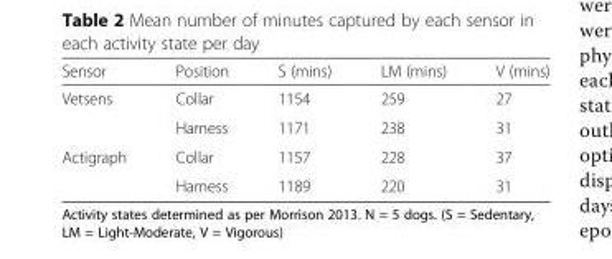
<table><thead><tr><td>Sensor</td><td>Position</td><td>S (mins)</td><td>LM (mins)</td><td>V (mins)</td></tr></thead><tbody><tr><td rowspan="2">Vetsens</td><td>Collar</td><td>1154</td><td>259</td><td>27</td></tr><tr><td>Harness</td><td>1171</td><td>238</td><td>31</td></tr><tr><td rowspan="2">Actigraph</td><td>Collar</td><td>1157</td><td>228</td><td>37</td></tr><tr><td>Harness</td><td>1189</td><td>220</td><td>31</td></tr></tbody></table>